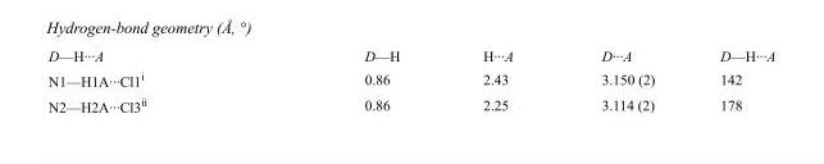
<table><tbody><tr><td>D—H···A</td><td>D—H</td><td>H···A</td><td>D···A</td><td>D—H···A</td></tr><tr><td>N1—H1A···Cl1<sup>i</sup></td><td>0.86</td><td>2.43</td><td>3.150 (2)</td><td>142</td></tr><tr><td>N2—H2A···Cl3<sup>ii</sup></td><td>0.86</td><td>2.25</td><td>3.114 (2)</td><td>178</td></tr></tbody></table>